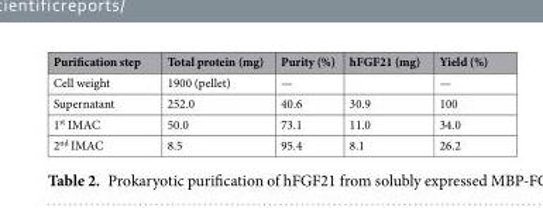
<table><thead><tr><td>Purification step</td><td>Total protein (mg)</td><td>Purity (%)</td><td>hFGF21 (mg)</td><td>Yield (%)</td></tr></thead><tbody><tr><td>Cell weight</td><td>1900 (pellet)</td><td>—</td><td></td><td>—</td></tr><tr><td>Supernatant</td><td>252.0</td><td>40.6</td><td>30.9</td><td>100</td></tr><tr><td>1<sup>st</sup> IMAC</td><td>50.0</td><td>73.1</td><td>11.0</td><td>34.0</td></tr><tr><td>2<sup>nd</sup> IMAC</td><td>8.5</td><td>95.4</td><td>8.1</td><td>26.2</td></tr></tbody></table>